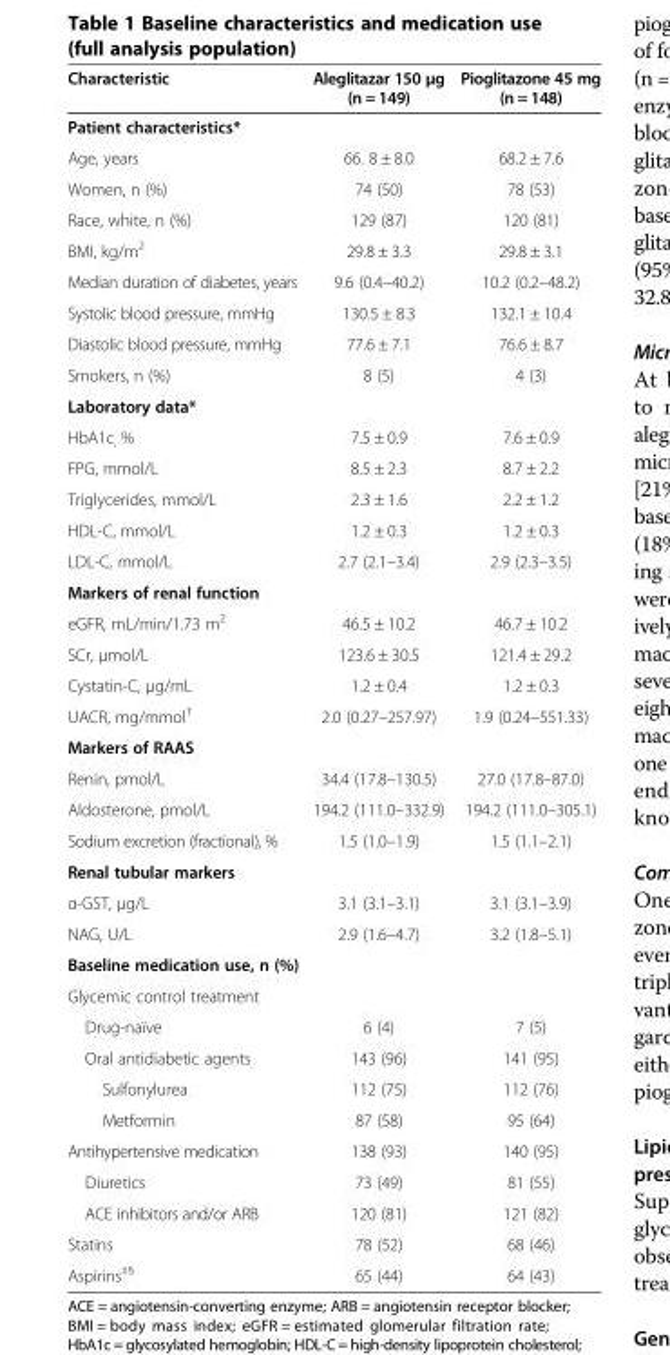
<table><thead><tr><td>Characteristic</td><td>Aleglitazar 150 μg (n = 149)</td><td>Pioglitazone 45 mg (n = 148)</td></tr></thead><tbody><tr><td colspan="3">Patient characteristics*</td></tr><tr><td>Age, years</td><td>66. 8 ± 8.0</td><td>68.2 ± 7.6</td></tr><tr><td>Women, n (%)</td><td>74 (50)</td><td>78 (53)</td></tr><tr><td>Race, white, n (%)</td><td>129 (87)</td><td>120 (81)</td></tr><tr><td>BMI, kg/m<sup>2</sup></td><td>29.8 ± 3.3</td><td>29.8 ± 3.1</td></tr><tr><td>Median duration of diabetes, years</td><td>9.6 (0.4–40.2)</td><td>10.2 (0.2–48.2)</td></tr><tr><td>Systolic blood pressure, mmHg</td><td>130.5 ± 8.3</td><td>132.1 ± 10.4</td></tr><tr><td>Diastolic blood pressure, mmHg</td><td>77.6 ± 7.1</td><td>76.6 ± 8.7</td></tr><tr><td>Smokers, n (%)</td><td>8 (5)</td><td>4 (3)</td></tr><tr><td colspan="3">Laboratory data*</td></tr><tr><td>HbA1c<sub>,</sub> %</td><td>7.5 ± 0.9</td><td>7.6 ± 0.9</td></tr><tr><td>FPG, mmol/L</td><td>8.5 ± 2.3</td><td>8.7 ± 2.2</td></tr><tr><td>Triglycerides, mmol/L</td><td>2.3 ± 1.6</td><td>2.2 ± 1.2</td></tr><tr><td>HDL-C, mmol/L</td><td>1.2 ± 0.3</td><td>1.2 ± 0.3</td></tr><tr><td>LDL-C, mmol/L</td><td>2.7 (2.1–3.4)</td><td>2.9 (2.3–3.5)</td></tr><tr><td colspan="3">Markers of renal function</td></tr><tr><td>eGFR, mL/min/1.73 m<sup>2</sup></td><td>46.5 ± 10.2</td><td>46.7 ± 10.2</td></tr><tr><td>SCr, μmol/L</td><td>123.6 ± 30.5</td><td>121.4 ± 29.2</td></tr><tr><td>Cystatin-C, μg/mL</td><td>1.2 ± 0.4</td><td>1.2 ± 0.3</td></tr><tr><td>UACR, mg/mmol<sup>†</sup></td><td>2.0 (0.27–257.97)</td><td>1.9 (0.24–551.33)</td></tr><tr><td colspan="3">Markers of RAAS</td></tr><tr><td>Renin, pmol/L</td><td>34.4 (17.8–130.5)</td><td>27.0 (17.8–87.0)</td></tr><tr><td>Aldosterone, pmol/L</td><td>194.2 (111.0–332.9)</td><td>194.2 (111.0–305.1)</td></tr><tr><td>Sodium excretion (fractional), %</td><td>1.5 (1.0–1.9)</td><td>1.5 (1.1–2.1)</td></tr><tr><td colspan="3">Renal tubular markers</td></tr><tr><td>α-GST, μg/L</td><td>3.1 (3.1–3.1)</td><td>3.1 (3.1–3.9)</td></tr><tr><td>NAG, U/L</td><td>2.9 (1.6–4.7)</td><td>3.2 (1.8–5.1)</td></tr><tr><td colspan="3">Baseline medication use, n (%)</td></tr><tr><td colspan="3">Glycemic control treatment</td></tr><tr><td>Drug-naïve</td><td>6 (4)</td><td>7 (5)</td></tr><tr><td>Oral antidiabetic agents</td><td>143 (96)</td><td>141 (95)</td></tr><tr><td>Sulfonylurea</td><td>112 (75)</td><td>112 (76)</td></tr><tr><td>Metformin</td><td>87 (58)</td><td>95 (64)</td></tr><tr><td>Antihypertensive medication</td><td>138 (93)</td><td>140 (95)</td></tr><tr><td>Diuretics</td><td>73 (49)</td><td>81 (55)</td></tr><tr><td>ACE inhibitors and/or ARB</td><td>120 (81)</td><td>121 (82)</td></tr><tr><td>Statins</td><td>78 (52)</td><td>68 (46)</td></tr><tr><td>Aspirins<sup>‡§</sup></td><td>65 (44)</td><td>64 (43)</td></tr></tbody></table>